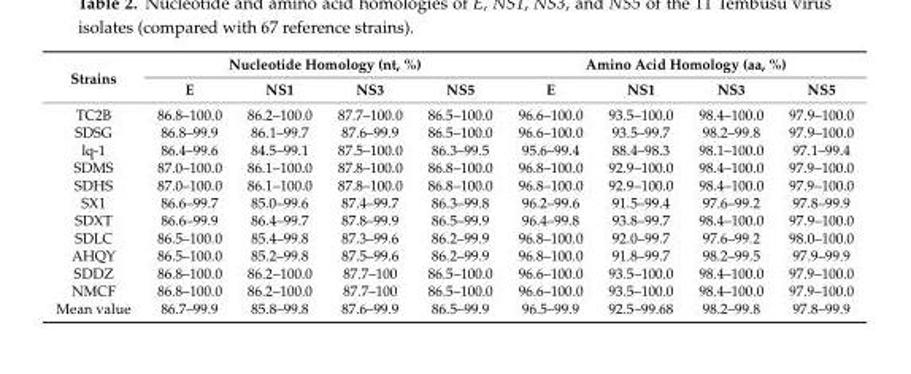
<table><thead><tr><td rowspan="2">Strains</td><td colspan="4">Nucleotide Homology (nt, %)</td><td colspan="4">Amino Acid Homology (aa, %)</td></tr><tr><td>E</td><td>NS1</td><td>NS3</td><td>NS5</td><td>E</td><td>NS1</td><td>NS3</td><td>NS5</td></tr></thead><tbody><tr><td>TC2B</td><td>86.8–100.0</td><td>86.2–100.0</td><td>87.7–100.0</td><td>86.5–100.0</td><td>96.6–100.0</td><td>93.5–100.0</td><td>98.4–100.0</td><td>97.9–100.0</td></tr><tr><td>SDSG</td><td>86.8–99.9</td><td>86.1–99.7</td><td>87.6–99.9</td><td>86.5–100.0</td><td>96.6–100.0</td><td>93.5–99.7</td><td>98.2–99.8</td><td>97.9–100.0</td></tr><tr><td>lq-1</td><td>86.4–99.6</td><td>84.5–99.1</td><td>87.5–100.0</td><td>86.3–99.5</td><td>95.6–99.4</td><td>88.4–98.3</td><td>98.1–100.0</td><td>97.1–99.4</td></tr><tr><td>SDMS</td><td>87.0–100.0</td><td>86.1–100.0</td><td>87.8–100.0</td><td>86.8–100.0</td><td>96.8–100.0</td><td>92.9–100.0</td><td>98.4–100.0</td><td>97.9–100.0</td></tr><tr><td>SDHS</td><td>87.0–100.0</td><td>86.1–100.0</td><td>87.8–100.0</td><td>86.8–100.0</td><td>96.8–100.0</td><td>92.9–100.0</td><td>98.4–100.0</td><td>97.9–100.0</td></tr><tr><td>SX1</td><td>86.6–99.7</td><td>85.0–99.6</td><td>87.4–99.7</td><td>86.3–99.8</td><td>96.2–99.6</td><td>91.5–99.4</td><td>97.6–99.2</td><td>97.8–99.9</td></tr><tr><td>SDXT</td><td>86.6–99.9</td><td>86.4–99.7</td><td>87.8–99.9</td><td>86.5–99.9</td><td>96.4–99.8</td><td>93.8–99.7</td><td>98.4–100.0</td><td>97.9–100.0</td></tr><tr><td>SDLC</td><td>86.5–100.0</td><td>85.4–99.8</td><td>87.3–99.6</td><td>86.2–99.9</td><td>96.8–100.0</td><td>92.0–99.7</td><td>97.6–99.2</td><td>98.0–100.0</td></tr><tr><td>AHQY</td><td>86.5–100.0</td><td>85.2–99.8</td><td>87.5–99.6</td><td>86.2–99.9</td><td>96.8–100.0</td><td>91.8–99.7</td><td>98.2–99.5</td><td>97.9–99.9</td></tr><tr><td>SDDZ</td><td>86.8–100.0</td><td>86.2–100.0</td><td>87.7–100</td><td>86.5–100.0</td><td>96.6–100.0</td><td>93.5–100.0</td><td>98.4–100.0</td><td>97.9–100.0</td></tr><tr><td>NMCF</td><td>86.8–100.0</td><td>86.2–100.0</td><td>87.7–100</td><td>86.5–100.0</td><td>96.6–100.0</td><td>93.5–100.0</td><td>98.4–100.0</td><td>97.9–100.0</td></tr><tr><td>Mean value</td><td>86.7–99.9</td><td>85.8–99.8</td><td>87.6–99.9</td><td>86.5–99.9</td><td>96.5–99.9</td><td>92.5–99.68</td><td>98.2–99.8</td><td>97.8–99.9</td></tr></tbody></table>